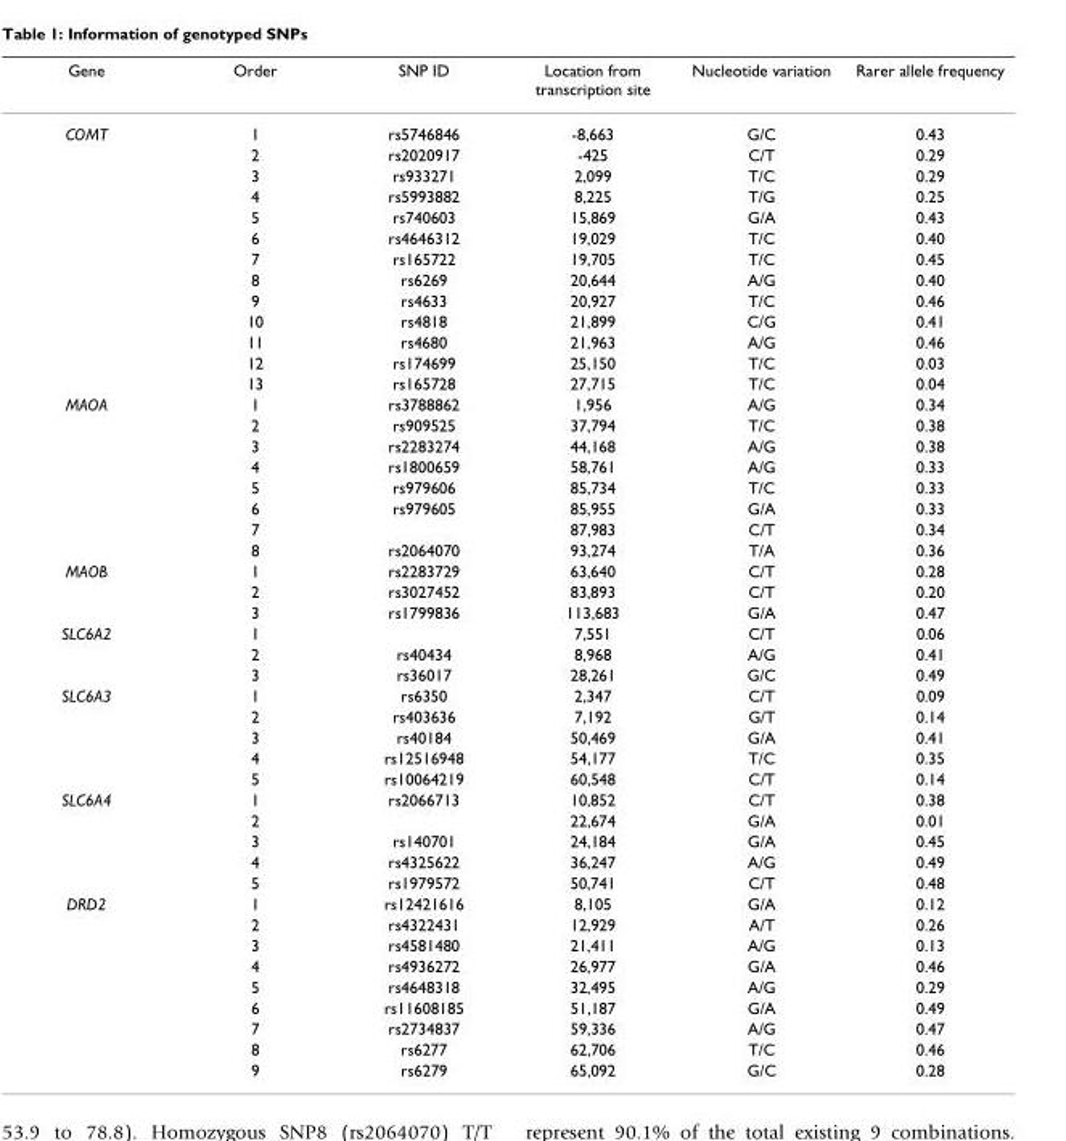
<table><thead><tr><td>Gene</td><td>Order</td><td>SNP ID</td><td>Location from transcription site</td><td>Nucleotide variation</td><td>Rarer allele frequency</td></tr></thead><tbody><tr><td rowspan="13">COMT</td><td>1</td><td>rs5746846</td><td>-8,663</td><td>G/C</td><td>0.43</td></tr><tr><td>2</td><td>rs2020917</td><td>-425</td><td>C/T</td><td>0.29</td></tr><tr><td>3</td><td>rs933271</td><td>2,099</td><td>T/C</td><td>0.29</td></tr><tr><td>4</td><td>rs5993882</td><td>8,225</td><td>T/G</td><td>0.25</td></tr><tr><td>5</td><td>rs740603</td><td>15,869</td><td>G/A</td><td>0.43</td></tr><tr><td>6</td><td>rs4646312</td><td>19,029</td><td>T/C</td><td>0.40</td></tr><tr><td>7</td><td>rs165722</td><td>19,705</td><td>T/C</td><td>0.45</td></tr><tr><td>8</td><td>rs6269</td><td>20,644</td><td>A/G</td><td>0.40</td></tr><tr><td>9</td><td>rs4633</td><td>20,927</td><td>T/C</td><td>0.46</td></tr><tr><td>10</td><td>rs4818</td><td>21,899</td><td>C/G</td><td>0.41</td></tr><tr><td>11</td><td>rs4680</td><td>21,963</td><td>A/G</td><td>0.46</td></tr><tr><td>12</td><td>rs174699</td><td>25,150</td><td>T/C</td><td>0.03</td></tr><tr><td>13</td><td>rs165728</td><td>27,715</td><td>T/C</td><td>0.04</td></tr><tr><td rowspan="8">MAOA</td><td>1</td><td>rs3788862</td><td>1,956</td><td>A/G</td><td>0.34</td></tr><tr><td>2</td><td>rs909525</td><td>37,794</td><td>T/C</td><td>0.38</td></tr><tr><td>3</td><td>rs2283274</td><td>44,168</td><td>A/G</td><td>0.38</td></tr><tr><td>4</td><td>rs1800659</td><td>58,761</td><td>A/G</td><td>0.33</td></tr><tr><td>5</td><td>rs979606</td><td>85,734</td><td>T/C</td><td>0.33</td></tr><tr><td>6</td><td>rs979605</td><td>85,955</td><td>G/A</td><td>0.33</td></tr><tr><td>7</td><td></td><td>87,983</td><td>C/T</td><td>0.34</td></tr><tr><td>8</td><td>rs2064070</td><td>93,274</td><td>T/A</td><td>0.36</td></tr><tr><td rowspan="3">MAOB</td><td>1</td><td>rs2283729</td><td>63,640</td><td>C/T</td><td>0.28</td></tr><tr><td>2</td><td>rs3027452</td><td>83,893</td><td>C/T</td><td>0.20</td></tr><tr><td>3</td><td>rs1799836</td><td>113,683</td><td>G/A</td><td>0.47</td></tr><tr><td rowspan="3">SLC6A2</td><td>1</td><td></td><td>7,551</td><td>C/T</td><td>0.06</td></tr><tr><td>2</td><td>rs40434</td><td>8,968</td><td>A/G</td><td>0.41</td></tr><tr><td>3</td><td>rs36017</td><td>28,261</td><td>G/C</td><td>0.49</td></tr><tr><td rowspan="5">SLC6A3</td><td>1</td><td>rs6350</td><td>2,347</td><td>C/T</td><td>0.09</td></tr><tr><td>2</td><td>rs403636</td><td>7,192</td><td>G/T</td><td>0.14</td></tr><tr><td>3</td><td>rs40184</td><td>50,469</td><td>G/A</td><td>0.41</td></tr><tr><td>4</td><td>rs12516948</td><td>54,177</td><td>T/C</td><td>0.35</td></tr><tr><td>5</td><td>rs10064219</td><td>60,548</td><td>C/T</td><td>0.14</td></tr><tr><td rowspan="5">SLC6A4</td><td>1</td><td>rs2066713</td><td>10,852</td><td>C/T</td><td>0.38</td></tr><tr><td>2</td><td></td><td>22,674</td><td>G/A</td><td>0.01</td></tr><tr><td>3</td><td>rs140701</td><td>24,184</td><td>G/A</td><td>0.45</td></tr><tr><td>4</td><td>rs4325622</td><td>36,247</td><td>A/G</td><td>0.49</td></tr><tr><td>5</td><td>rs1979572</td><td>50,741</td><td>C/T</td><td>0.48</td></tr><tr><td rowspan="9">DRD2</td><td>1</td><td>rs12421616</td><td>8,105</td><td>G/A</td><td>0.12</td></tr><tr><td>2</td><td>rs4322431</td><td>12,929</td><td>A/T</td><td>0.26</td></tr><tr><td>3</td><td>rs4581480</td><td>21,411</td><td>A/G</td><td>0.13</td></tr><tr><td>4</td><td>rs4936272</td><td>26,977</td><td>G/A</td><td>0.46</td></tr><tr><td>5</td><td>rs4648318</td><td>32,495</td><td>A/G</td><td>0.29</td></tr><tr><td>6</td><td>rs11608185</td><td>51,187</td><td>G/A</td><td>0.49</td></tr><tr><td>7</td><td>rs2734837</td><td>59,336</td><td>A/G</td><td>0.47</td></tr><tr><td>8</td><td>rs6277</td><td>62,706</td><td>T/C</td><td>0.46</td></tr><tr><td>9</td><td>rs6279</td><td>65,092</td><td>G/C</td><td>0.28</td></tr></tbody></table>